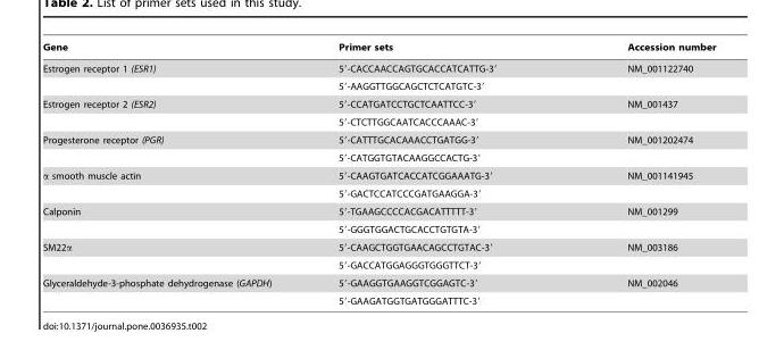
<table><thead><tr><td>Gene</td><td>Primer sets</td><td>Accession number</td></tr></thead><tbody><tr><td rowspan="2">Estrogen receptor 1 (ESR1)</td><td>5′-CACCAACCAGTGCACCATCATTG-3′</td><td>NM_001122740</td></tr><tr><td>5′-AAGGTTGGCAGCTCTCATGTC-3′</td><td></td></tr><tr><td rowspan="2">Estrogen receptor 2 (ESR2)</td><td>5′-CCATGATCCTGCTCAATTCC-3′</td><td>NM_001437</td></tr><tr><td>5′-CTCTTGGCAATCACCCAAAC-3′</td><td></td></tr><tr><td rowspan="2">Progesterone receptor (PGR)</td><td>5′-CATTTGCACAAACCTGATGG-3′</td><td>NM_001202474</td></tr><tr><td>5′-CATGGTGTACAAGGCCACTG-3′</td><td></td></tr><tr><td rowspan="2">α smooth muscle actin</td><td>5′-CAAGTGATCACCATCGGAAATG-3′</td><td>NM_001141945</td></tr><tr><td>5′-GACTCCATCCCGATGAAGGA-3′</td><td></td></tr><tr><td rowspan="2">Calponin</td><td>5′-TGAAGCCCCACGACATTTTT-3′</td><td>NM_001299</td></tr><tr><td>5′-GGGTGGACTGCACCTGTGTA-3′</td><td></td></tr><tr><td rowspan="2">SM22α</td><td>5′-CAAGCTGGTGAACAGCCTGTAC-3′</td><td>NM_003186</td></tr><tr><td>5′-GACCATGGAGGGTGGGTTCT-3′</td><td></td></tr><tr><td rowspan="2">Glyceraldehyde-3-phosphate dehydrogenase (GAPDH)</td><td>5′-GAAGGTGAAGGTCGGAGTC-3′</td><td>NM_002046</td></tr><tr><td>5′-GAAGATGGTGATGGGATTTC-3′</td><td></td></tr></tbody></table>